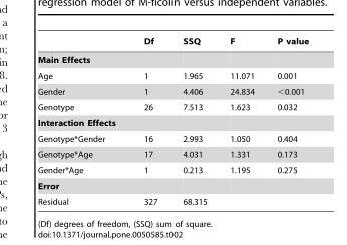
<table><thead><tr><td></td><td>Df</td><td>SSQ</td><td>F</td><td>P value</td></tr></thead><tbody><tr><td colspan="5">Main Effects</td></tr><tr><td>Age</td><td>1</td><td>1.965</td><td>11.071</td><td>0.001</td></tr><tr><td>Gender</td><td>1</td><td>4.406</td><td>24.834</td><td>&lt;0.001</td></tr><tr><td>Genotype</td><td>26</td><td>7.513</td><td>1.623</td><td>0.032</td></tr><tr><td colspan="5">Interaction Effects</td></tr><tr><td>Genotype*Gender</td><td>16</td><td>2.993</td><td>1.050</td><td>0.404</td></tr><tr><td>Genotype*Age</td><td>17</td><td>4.031</td><td>1.331</td><td>0.173</td></tr><tr><td>Gender*Age</td><td>1</td><td>0.213</td><td>1.195</td><td>0.275</td></tr><tr><td colspan="5">Error</td></tr><tr><td>Residual</td><td>327</td><td>68.315</td><td></td><td></td></tr></tbody></table>